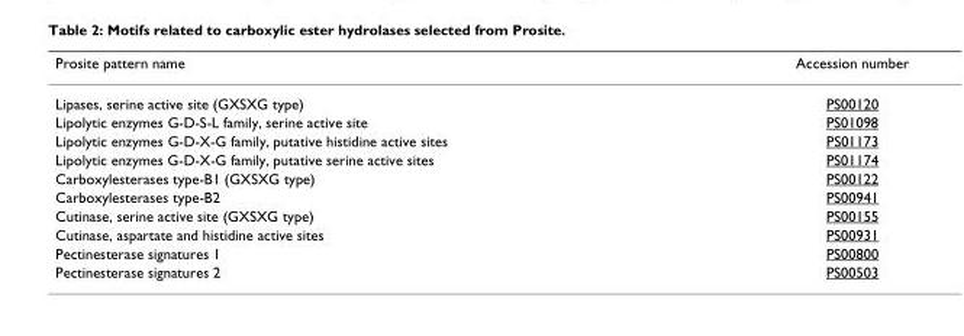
<table><thead><tr><td>Prosite pattern name</td><td>Accession number</td></tr></thead><tbody><tr><td>Lipases, serine active site (GXSXG type)</td><td>PS00120</td></tr><tr><td>Lipolytic enzymes G-D-S-L family, serine active site</td><td>PS01098</td></tr><tr><td>Lipolytic enzymes G-D-X-G family, putative histidine active sites</td><td>PS01173</td></tr><tr><td>Lipolytic enzymes G-D-X-G family, putative serine active sites</td><td>PS01174</td></tr><tr><td>Carboxylesterases type-B1 (GXSXG type)</td><td>PS00122</td></tr><tr><td>Carboxylesterases type-B2</td><td>PS00941</td></tr><tr><td>Cutinase, serine active site (GXSXG type)</td><td>PS00155</td></tr><tr><td>Cutinase, aspartate and histidine active sites</td><td>PS00931</td></tr><tr><td>Pectinesterase signatures 1</td><td>PS00800</td></tr><tr><td>Pectinesterase signatures 2</td><td>PS00503</td></tr></tbody></table>